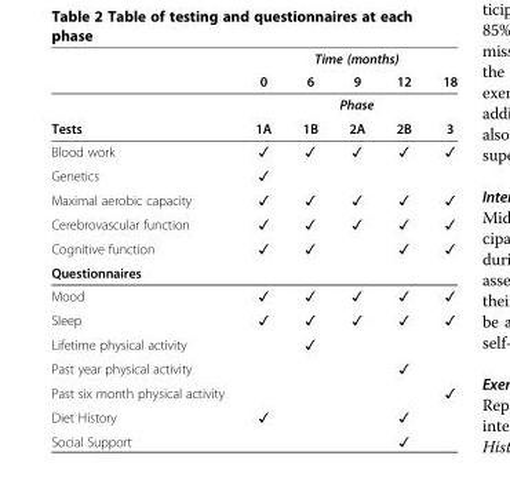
<table><thead><tr><td rowspan="2"></td><td colspan="5">Time (months)</td></tr><tr><td>0</td><td>6</td><td>9</td><td>12</td><td>18</td></tr></thead><tbody><tr><td></td><td colspan="5">Phase</td></tr><tr><td>Tests</td><td>1A</td><td>1B</td><td>2A</td><td>2B</td><td>3</td></tr><tr><td>Blood work</td><td>✓</td><td>✓</td><td>✓</td><td>✓</td><td>✓</td></tr><tr><td>Genetics</td><td>✓</td><td></td><td></td><td></td><td></td></tr><tr><td>Maximal aerobic capacity</td><td>✓</td><td>✓</td><td>✓</td><td>✓</td><td>✓</td></tr><tr><td>Cerebrovascular function</td><td>✓</td><td>✓</td><td>✓</td><td>✓</td><td>✓</td></tr><tr><td>Cognitive function</td><td>✓</td><td>✓</td><td></td><td>✓</td><td>✓</td></tr><tr><td colspan="6">Questionnaires</td></tr><tr><td>Mood</td><td>✓</td><td>✓</td><td>✓</td><td>✓</td><td>✓</td></tr><tr><td>Sleep</td><td>✓</td><td>✓</td><td>✓</td><td>✓</td><td>✓</td></tr><tr><td>Lifetime physical activity</td><td></td><td>✓</td><td></td><td></td><td></td></tr><tr><td>Past year physical activity</td><td></td><td></td><td></td><td>✓</td><td></td></tr><tr><td>Past six month physical activity</td><td></td><td></td><td></td><td></td><td>✓</td></tr><tr><td>Diet History</td><td>✓</td><td></td><td></td><td>✓</td><td></td></tr><tr><td>Social Support</td><td></td><td></td><td></td><td>✓</td><td></td></tr></tbody></table>